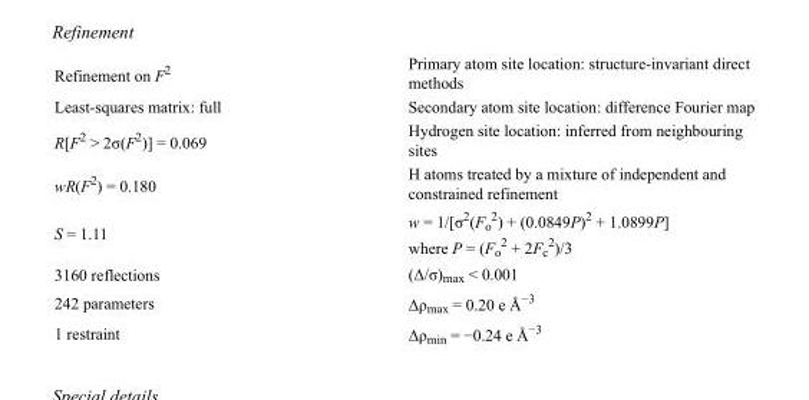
<table><tbody><tr><td>Refinement on F<sup>2</sup></td><td>Primary atom site location: structure-invariant direct methods</td></tr><tr><td>Least-squares matrix: full</td><td>Secondary atom site location: difference Fourier map</td></tr><tr><td>R[F<sup>2</sup> &gt; 2σ(F<sup>2</sup>)] = 0.069</td><td>Hydrogen site location: inferred from neighbouring sites</td></tr><tr><td>wR(F<sup>2</sup>) = 0.180</td><td>H atoms treated by a mixture of independent and constrained refinement</td></tr><tr><td>S = 1.11</td><td>w = 1/[σ<sup>2</sup>(F<sub>o</sub> <sup>2</sup>) + (0.0849P)<sup>2</sup> + 1.0899P] where P = (F<sub>o</sub> <sup>2</sup> + 2F<sub>c</sub> <sup>2</sup>)/3</td></tr><tr><td>3160 reflections</td><td>(Δ/σ)<sub>max</sub> &lt; 0.001</td></tr><tr><td>242 parameters</td><td>Δρ<sub>max</sub> = 0.20 e Å<sup>−3</sup></td></tr><tr><td>1 restraint</td><td>Δρ<sub>min</sub> = −0.24 e Å<sup>−3</sup></td></tr></tbody></table>